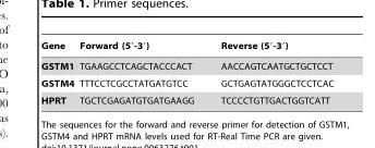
<table><thead><tr><td>Gene</td><td>Forward (5′-3′)</td><td>Reverse (5′-3′)</td></tr></thead><tbody><tr><td>GSTM1</td><td>TGAAGCCTCAGCTACCCACT</td><td>AACCAGTCAATGCTGCTCCT</td></tr><tr><td>GSTM4</td><td>TTTCCTCGCCTATGATGTCC</td><td>GCTGAGTATGGGCTCCTCAC</td></tr><tr><td>HPRT</td><td>TGCTCGAGATGTGATGAAGG</td><td>TCCCCTGTTGACTGGTCATT</td></tr></tbody></table>